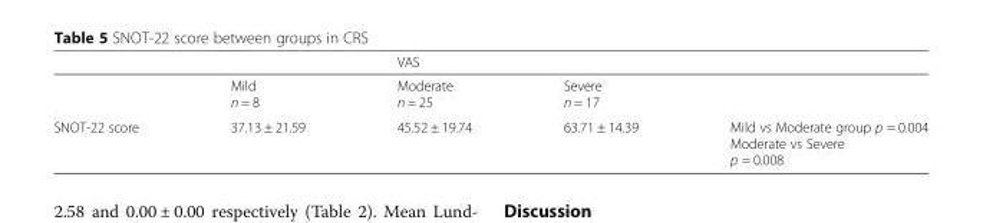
<table><thead><tr><td></td><td></td><td>VAS</td><td></td><td></td></tr></thead><tbody><tr><td></td><td>Mild n = 8</td><td>Moderate n = 25</td><td>Severe n = 17</td><td></td></tr><tr><td>SNOT-22 score</td><td>37.13 ± 21.59</td><td>45.52 ± 19.74</td><td>63.71 ± 14.39</td><td>Mild vs Moderate group p = 0.004 Moderate vs Severe p = 0.008</td></tr></tbody></table>